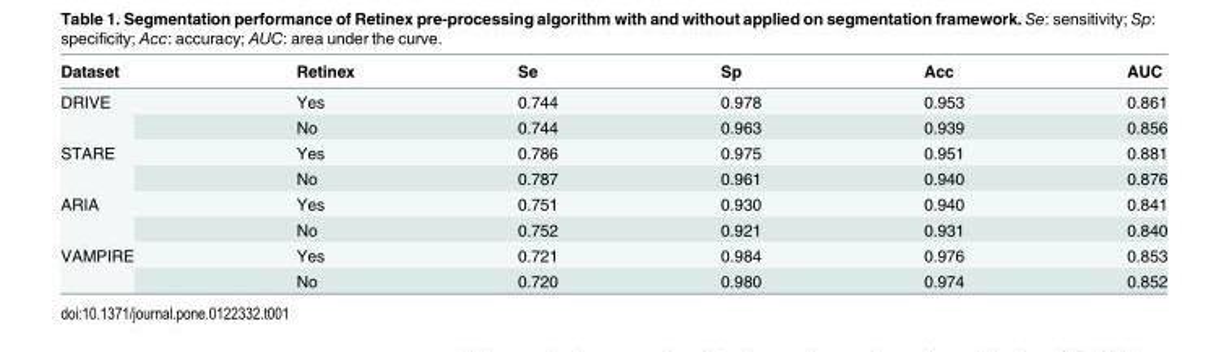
<table><thead><tr><td>Dataset</td><td>Retinex</td><td>Se</td><td>Sp</td><td>Acc</td><td>AUC</td></tr></thead><tbody><tr><td rowspan="2">DRIVE</td><td>Yes</td><td>0.744</td><td>0.978</td><td>0.953</td><td>0.861</td></tr><tr><td>No</td><td>0.744</td><td>0.963</td><td>0.939</td><td>0.856</td></tr><tr><td rowspan="2">STARE</td><td>Yes</td><td>0.786</td><td>0.975</td><td>0.951</td><td>0.881</td></tr><tr><td>No</td><td>0.787</td><td>0.961</td><td>0.940</td><td>0.876</td></tr><tr><td rowspan="2">ARIA</td><td>Yes</td><td>0.751</td><td>0.930</td><td>0.940</td><td>0.841</td></tr><tr><td>No</td><td>0.752</td><td>0.921</td><td>0.931</td><td>0.840</td></tr><tr><td rowspan="2">VAMPIRE</td><td>Yes</td><td>0.721</td><td>0.984</td><td>0.976</td><td>0.853</td></tr><tr><td>No</td><td>0.720</td><td>0.980</td><td>0.974</td><td>0.852</td></tr></tbody></table>